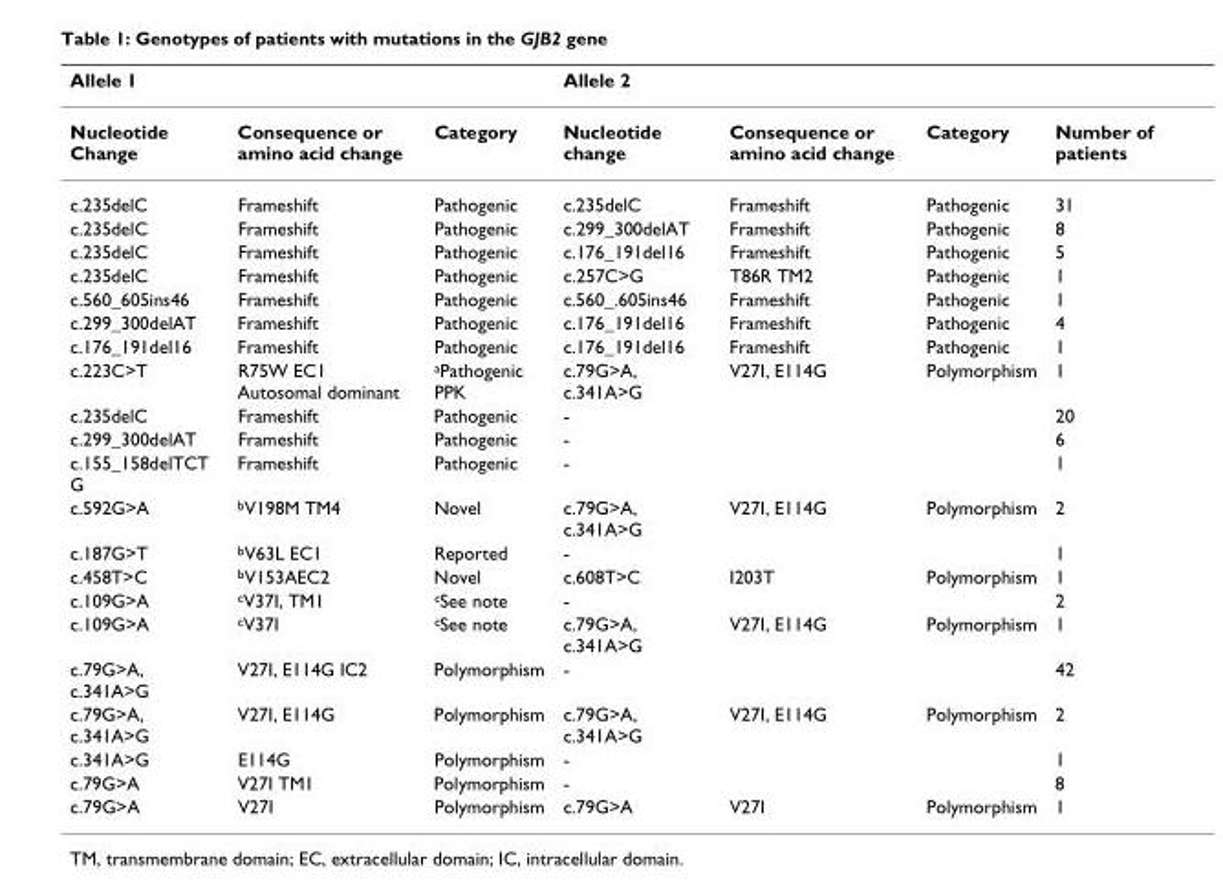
<table><thead><tr><td colspan="3">Allele 1</td><td colspan="3">Allele 2</td><td rowspan="2">Number of patients</td></tr><tr><td>Nucleotide Change</td><td>Consequence or amino acid change</td><td>Category</td><td>Nucleotide change</td><td>Consequence or amino acid change</td><td>Category</td></tr></thead><tbody><tr><td>c.235delC</td><td>Frameshift</td><td>Pathogenic</td><td>c.235delC</td><td>Frameshift</td><td>Pathogenic</td><td>31</td></tr><tr><td>c.235delC</td><td>Frameshift</td><td>Pathogenic</td><td>c.299_300delAT</td><td>Frameshift</td><td>Pathogenic</td><td>8</td></tr><tr><td>c.235delC</td><td>Frameshift</td><td>Pathogenic</td><td>c.176_191del16</td><td>Frameshift</td><td>Pathogenic</td><td>5</td></tr><tr><td>c.235delC</td><td>Frameshift</td><td>Pathogenic</td><td>c.257C&gt;G</td><td>T86R TM2</td><td>Pathogenic</td><td>1</td></tr><tr><td>c.560_605ins46</td><td>Frameshift</td><td>Pathogenic</td><td>c.560_.605ins46</td><td>Frameshift</td><td>Pathogenic</td><td>1</td></tr><tr><td>c.299_300delAT</td><td>Frameshift</td><td>Pathogenic</td><td>c.176_191del16</td><td>Frameshift</td><td>Pathogenic</td><td>4</td></tr><tr><td>c.176_191del16</td><td>Frameshift</td><td>Pathogenic</td><td>c.176_191del16</td><td>Frameshift</td><td>Pathogenic</td><td>1</td></tr><tr><td>c.223C&gt;T</td><td>R75W EC1 Autosomal dominant</td><td><sup>a</sup>Pathogenic PPK</td><td>c.79G&gt;A, c.341A&gt;G</td><td>V27I, E114G</td><td>Polymorphism</td><td>1</td></tr><tr><td>c.235delC</td><td>Frameshift</td><td>Pathogenic</td><td>-</td><td></td><td></td><td>20</td></tr><tr><td>c.299_300delAT</td><td>Frameshift</td><td>Pathogenic</td><td>-</td><td></td><td></td><td>6</td></tr><tr><td>c.155_158delTCT G</td><td>Frameshift</td><td>Pathogenic</td><td>-</td><td></td><td></td><td>1</td></tr><tr><td>c.592G&gt;A</td><td><sup>b</sup>V198M TM4</td><td>Novel</td><td>c.79G&gt;A, c.341A&gt;G</td><td>V27I, E114G</td><td>Polymorphism</td><td>2</td></tr><tr><td>c.187G&gt;T</td><td><sup>b</sup>V63L EC1</td><td>Reported</td><td>-</td><td></td><td></td><td>1</td></tr><tr><td>c.458T&gt;C</td><td><sup>b</sup>V153AEC2</td><td>Novel</td><td>c.608T&gt;C</td><td>I203T</td><td>Polymorphism</td><td>1</td></tr><tr><td>c.109G&gt;A</td><td><sup>c</sup>V37I, TM1</td><td><sup>c</sup>See note</td><td>-</td><td></td><td></td><td>2</td></tr><tr><td>c.109G&gt;A</td><td><sup>c</sup>V37I</td><td><sup>c</sup>See note</td><td>c.79G&gt;A, c.341A&gt;G</td><td>V27I, E114G</td><td>Polymorphism</td><td>1</td></tr><tr><td>c.79G&gt;A, c.341A&gt;G</td><td>V27I, E114G IC2</td><td>Polymorphism</td><td>-</td><td></td><td></td><td>42</td></tr><tr><td>c.79G&gt;A, c.341A&gt;G</td><td>V27I, E114G</td><td>Polymorphism</td><td>c.79G&gt;A, c.341A&gt;G</td><td>V27I, E114G</td><td>Polymorphism</td><td>2</td></tr><tr><td>c.341A&gt;G</td><td>E114G</td><td>Polymorphism</td><td>-</td><td></td><td></td><td>1</td></tr><tr><td>c.79G&gt;A</td><td>V27I TM1</td><td>Polymorphism</td><td>-</td><td></td><td></td><td>8</td></tr><tr><td>c.79G&gt;A</td><td>V27I</td><td>Polymorphism</td><td>c.79G&gt;A</td><td>V27I</td><td>Polymorphism</td><td>1</td></tr></tbody></table>